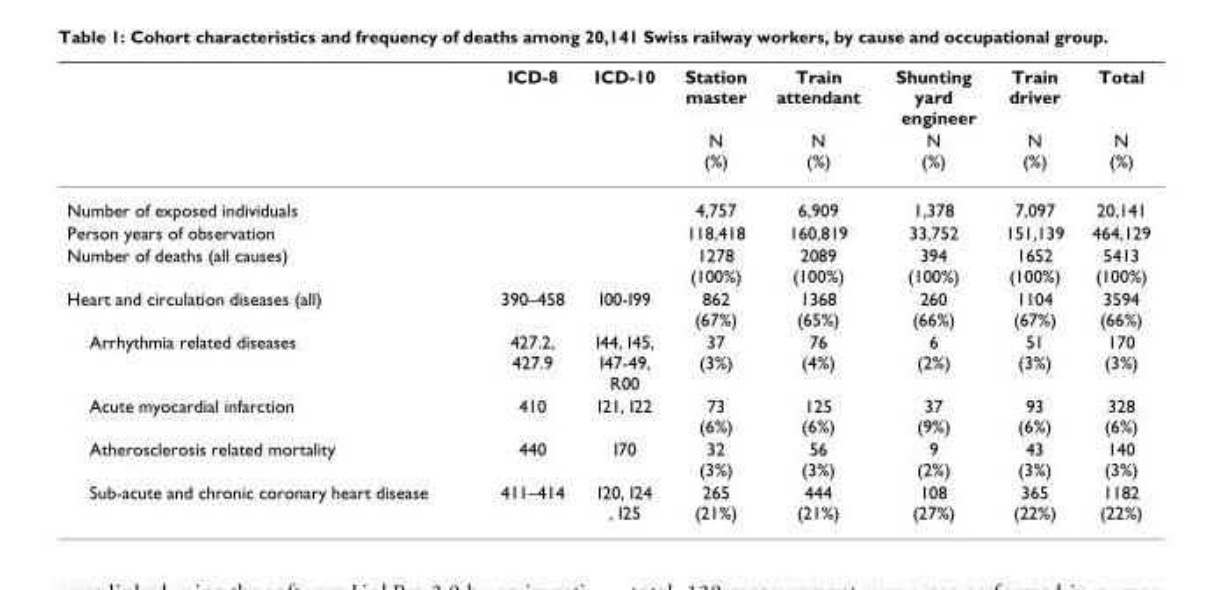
<table><thead><tr><td rowspan="2"></td><td rowspan="2">ICD-8</td><td rowspan="2">ICD-10</td><td rowspan="2">Station master N (%)</td><td rowspan="2">Train attendant N (%)</td><td rowspan="2">Shunting yard engineer N (%)</td><td rowspan="2">Train driver N (%)</td><td rowspan="2">Total N (%)</td></tr><tr></tr></thead><tbody><tr><td>Number of exposed individuals</td><td></td><td></td><td>4,757</td><td>6,909</td><td>1,378</td><td>7,097</td><td>20,141</td></tr><tr><td>Person years of observation</td><td></td><td></td><td>118,418</td><td>160,819</td><td>33,752</td><td>151,139</td><td>464,129</td></tr><tr><td>Number of deaths (all causes)</td><td></td><td></td><td>1278 (100%)</td><td>2089 (100%)</td><td>394 (100%)</td><td>1652 (100%)</td><td>5413 (100%)</td></tr><tr><td>Heart and circulation diseases (all)</td><td>390–458</td><td>I00-I99</td><td>862 (67%)</td><td>1368 (65%)</td><td>260 (66%)</td><td>1104 (67%)</td><td>3594 (66%)</td></tr><tr><td>Arrhythmia related diseases</td><td>427.2, 427.9</td><td>I44, I45, I47-49, R00</td><td>37 (3%)</td><td>76 (4%)</td><td>6 (2%)</td><td>51 (3%)</td><td>170 (3%)</td></tr><tr><td>Acute myocardial infarction</td><td>410</td><td>I21, I22</td><td>73 (6%)</td><td>125 (6%)</td><td>37 (9%)</td><td>93 (6%)</td><td>328 (6%)</td></tr><tr><td>Atherosclerosis related mortality</td><td>440</td><td>I70</td><td>32 (3%)</td><td>56 (3%)</td><td>9 (2%)</td><td>43 (3%)</td><td>140 (3%)</td></tr><tr><td>Sub-acute and chronic coronary heart disease</td><td>411–414</td><td>I20, I24 , I25</td><td>265 (21%)</td><td>444 (21%)</td><td>108 (27%)</td><td>365 (22%)</td><td>1182 (22%)</td></tr></tbody></table>